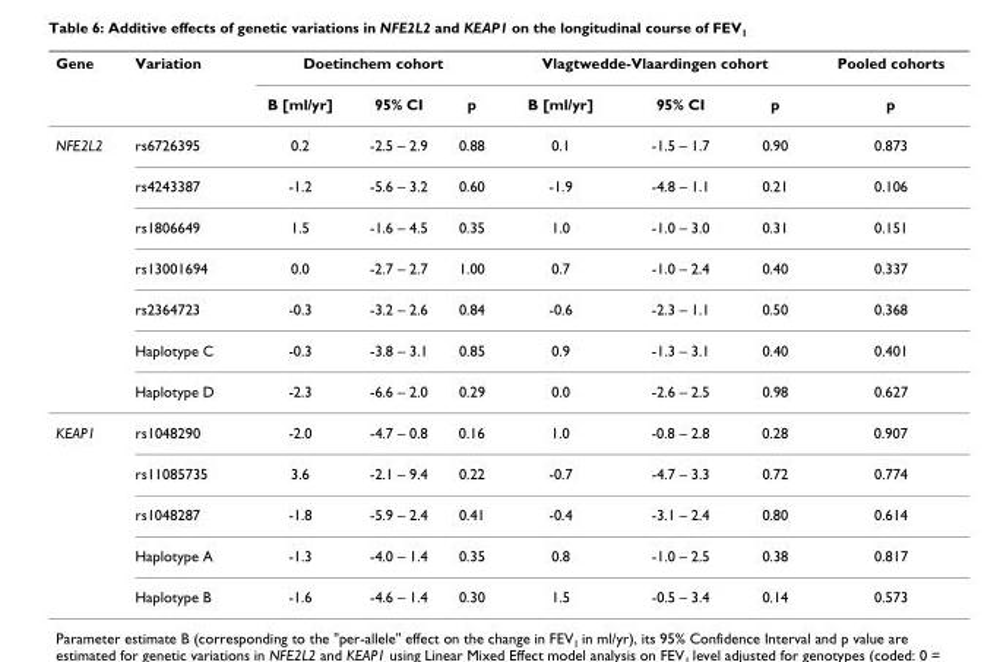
<table><thead><tr><td rowspan="2">Gene</td><td rowspan="2">Variation</td><td colspan="3">Doetinchem cohort</td><td colspan="3">Vlagtwedde-Vlaardingen cohort</td><td rowspan="2">Pooled cohorts p</td></tr><tr><td>B [ml/yr]</td><td>95% CI</td><td>p</td><td>B [ml/yr]</td><td>95% CI</td><td>p</td></tr></thead><tbody><tr><td rowspan="7">NFE2L2</td><td>rs6726395</td><td>0.2</td><td>-2.5 – 2.9</td><td>0.88</td><td>0.1</td><td>-1.5 – 1.7</td><td>0.90</td><td>0.873</td></tr><tr><td>rs4243387</td><td>-1.2</td><td>-5.6 – 3.2</td><td>0.60</td><td>-1.9</td><td>-4.8 – 1.1</td><td>0.21</td><td>0.106</td></tr><tr><td>rs1806649</td><td>1.5</td><td>-1.6 – 4.5</td><td>0.35</td><td>1.0</td><td>-1.0 – 3.0</td><td>0.31</td><td>0.151</td></tr><tr><td>rs13001694</td><td>0.0</td><td>-2.7 – 2.7</td><td>1.00</td><td>0.7</td><td>-1.0 – 2.4</td><td>0.40</td><td>0.337</td></tr><tr><td>rs2364723</td><td>-0.3</td><td>-3.2 – 2.6</td><td>0.84</td><td>-0.6</td><td>-2.3 – 1.1</td><td>0.50</td><td>0.368</td></tr><tr><td>Haplotype C</td><td>-0.3</td><td>-3.8 – 3.1</td><td>0.85</td><td>0.9</td><td>-1.3 – 3.1</td><td>0.40</td><td>0.401</td></tr><tr><td>Haplotype D</td><td>-2.3</td><td>-6.6 – 2.0</td><td>0.29</td><td>0.0</td><td>-2.6 – 2.5</td><td>0.98</td><td>0.627</td></tr><tr><td rowspan="5">KEAP1</td><td>rs1048290</td><td>-2.0</td><td>-4.7 – 0.8</td><td>0.16</td><td>1.0</td><td>-0.8 – 2.8</td><td>0.28</td><td>0.907</td></tr><tr><td>rs11085735</td><td>3.6</td><td>-2.1 – 9.4</td><td>0.22</td><td>-0.7</td><td>-4.7 – 3.3</td><td>0.72</td><td>0.774</td></tr><tr><td>rs1048287</td><td>-1.8</td><td>-5.9 – 2.4</td><td>0.41</td><td>-0.4</td><td>-3.1 – 2.4</td><td>0.80</td><td>0.614</td></tr><tr><td>Haplotype A</td><td>-1.3</td><td>-4.0 – 1.4</td><td>0.35</td><td>0.8</td><td>-1.0 – 2.5</td><td>0.38</td><td>0.817</td></tr><tr><td>Haplotype B</td><td>-1.6</td><td>-4.6 – 1.4</td><td>0.30</td><td>1.5</td><td>-0.5 – 3.4</td><td>0.14</td><td>0.573</td></tr></tbody></table>